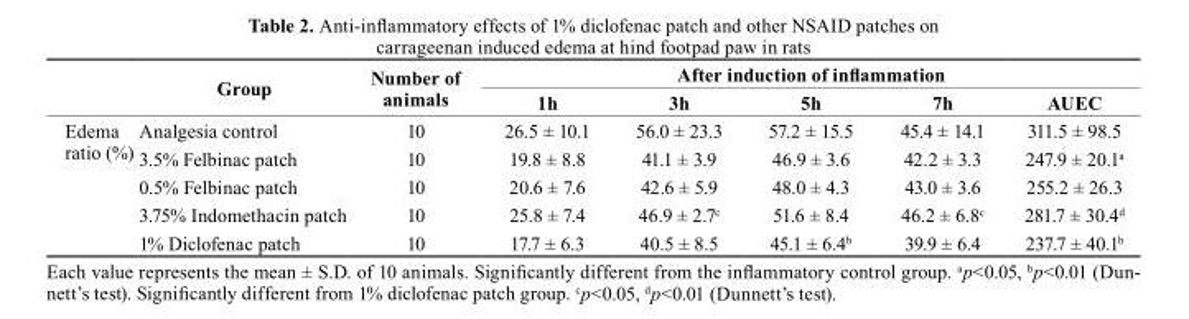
<table><thead><tr><td rowspan="2"></td><td rowspan="2">Group</td><td rowspan="2">Number of animals</td><td colspan="5">After induction of inflammation</td></tr><tr><td>1h</td><td>3h</td><td>5h</td><td>7h</td><td>AUEC</td></tr></thead><tbody><tr><td rowspan="5">Edema ratio (%)</td><td>Analgesia control</td><td>10</td><td>26.5 ± 10.1</td><td>56.0 ± 23.3</td><td>57.2 ± 15.5</td><td>45.4 ± 14.1</td><td>311.5 ± 98.5</td></tr><tr><td>3.5% Felbinac patch</td><td>10</td><td>19.8 ± 8.8</td><td>41.1 ± 3.9</td><td>46.9 ± 3.6</td><td>42.2 ± 3.3</td><td>247.9 ± 20.1<sup>a</sup></td></tr><tr><td>0.5% Felbinac patch</td><td>10</td><td>20.6 ± 7.6</td><td>42.6 ± 5.9</td><td>48.0 ± 4.3</td><td>43.0 ± 3.6</td><td>255.2 ± 26.3</td></tr><tr><td>3.75% Indomethacin patch</td><td>10</td><td>25.8 ± 7.4</td><td>46.9 ± 2.7<sup>c</sup></td><td>51.6 ± 8.4</td><td>46.2 ± 6.8<sup>c</sup></td><td>281.7 ± 30.4<sup>d</sup></td></tr><tr><td>1% Diclofenac patch</td><td>10</td><td>17.7 ± 6.3</td><td>40.5 ± 8.5</td><td>45.1 ± 6.4<sup>b</sup></td><td>39.9 ± 6.4</td><td>237.7 ± 40.1<sup>b</sup></td></tr></tbody></table>